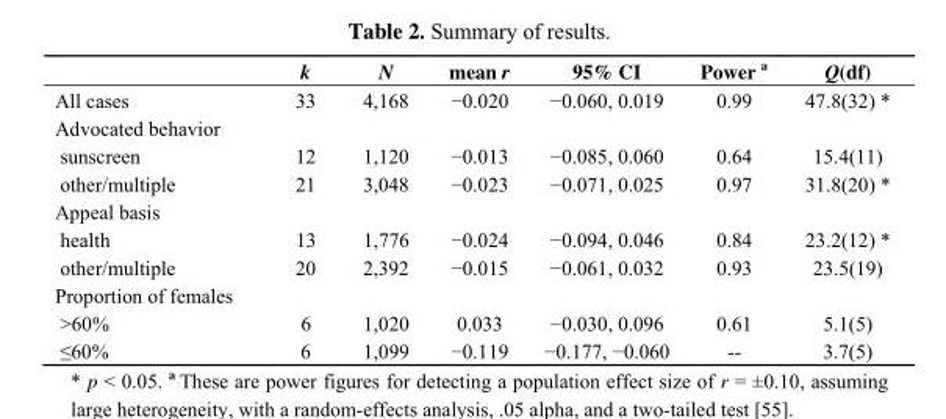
<table><thead><tr><td></td><td>k</td><td>N</td><td>mean r</td><td>95% CI</td><td>Power <sup>a</sup></td><td>Q(df)</td></tr></thead><tbody><tr><td>All cases</td><td>33</td><td>4,168</td><td>−0.020</td><td>−0.060, 0.019</td><td>0.99</td><td>47.8(32) *</td></tr><tr><td colspan="7">Advocated behavior</td></tr><tr><td>sunscreen</td><td>12</td><td>1,120</td><td>−0.013</td><td>−0.085, 0.060</td><td>0.64</td><td>15.4(11)</td></tr><tr><td>other/multiple</td><td>21</td><td>3,048</td><td>−0.023</td><td>−0.071, 0.025</td><td>0.97</td><td>31.8(20) *</td></tr><tr><td colspan="7">Appeal basis</td></tr><tr><td>health</td><td>13</td><td>1,776</td><td>−0.024</td><td>−0.094, 0.046</td><td>0.84</td><td>23.2(12) *</td></tr><tr><td>other/multiple</td><td>20</td><td>2,392</td><td>−0.015</td><td>−0.061, 0.032</td><td>0.93</td><td>23.5(19)</td></tr><tr><td colspan="7">Proportion of females</td></tr><tr><td>&gt;60%</td><td>6</td><td>1,020</td><td>0.033</td><td>−0.030, 0.096</td><td>0.61</td><td>5.1(5)</td></tr><tr><td>≤60%</td><td>6</td><td>1,099</td><td>−0.119</td><td>−0.177, −0.060</td><td>--</td><td>3.7(5)</td></tr></tbody></table>